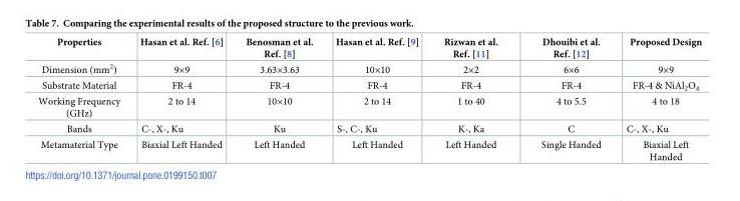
<table><thead><tr><td>Properties</td><td>Hasan et al. Ref. [6]</td><td>Benosman et al. Ref. [8]</td><td>Hasan et al. Ref. [9]</td><td>Rizwan et al. Ref. [11]</td><td>Dhouibi et al. Ref. [12]</td><td>Proposed Design</td></tr></thead><tbody><tr><td>Dimension (mm<sup>2</sup>)</td><td>9×9</td><td>3.63×3.63</td><td>10×10</td><td>2×2</td><td>6×6</td><td>9×9</td></tr><tr><td>Substrate Material</td><td>FR-4</td><td>FR-4</td><td>FR-4</td><td>FR-4</td><td>FR-4</td><td>FR-4 &amp; NiAl<sub>2</sub>O<sub>4</sub></td></tr><tr><td>Working Frequency (GHz)</td><td>2 to 14</td><td>10×10</td><td>2 to 14</td><td>1 to 40</td><td>4 to 5.5</td><td>4 to 18</td></tr><tr><td>Bands</td><td>C-, X-, Ku</td><td>Ku</td><td>S-, C-, Ku</td><td>K-, Ka</td><td>C</td><td>C-, X-, Ku</td></tr><tr><td>Metamaterial Type</td><td>Biaxial Left Handed</td><td>Left Handed</td><td>Left Handed</td><td>Left Handed</td><td>Single Handed</td><td>Biaxial Left Handed</td></tr></tbody></table>